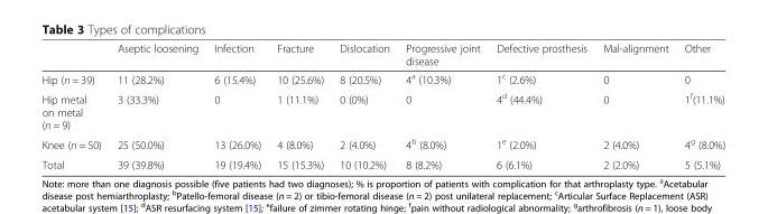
<table><thead><tr><td></td><td>Aseptic loosening</td><td>Infection</td><td>Fracture</td><td>Dislocation</td><td>Progressive joint disease</td><td>Defective prosthesis</td><td>Mal-alignment</td><td>Other</td></tr></thead><tbody><tr><td>Hip (n = 39)</td><td>11 (28.2%)</td><td>6 (15.4%)</td><td>10 (25.6%)</td><td>8 (20.5%)</td><td>4<sup>a</sup> (10.3%)</td><td>1<sup>c</sup> (2.6%)</td><td>0</td><td>0</td></tr><tr><td>Hip metal on metal (n = 9)</td><td>3 (33.3%)</td><td>0</td><td>1 (11.1%)</td><td>0 (0%)</td><td>0</td><td>4<sup>d</sup> (44.4%)</td><td>0</td><td>1<sup>f</sup>(11.1%)</td></tr><tr><td>Knee (n = 50)</td><td>25 (50.0%)</td><td>13 (26.0%)</td><td>4 (8.0%)</td><td>2 (4.0%)</td><td>4<sup>b</sup> (8.0%)</td><td>1<sup>e</sup> (2.0%)</td><td>2 (4.0%)</td><td>4<sup>g</sup> (8.0%)</td></tr><tr><td>Total</td><td>39 (39.8%)</td><td>19 (19.4%)</td><td>15 (15.3%)</td><td>10 (10.2%)</td><td>8 (8.2%)</td><td>6 (6.1%)</td><td>2 (2.0%)</td><td>5 (5.1%)</td></tr></tbody></table>